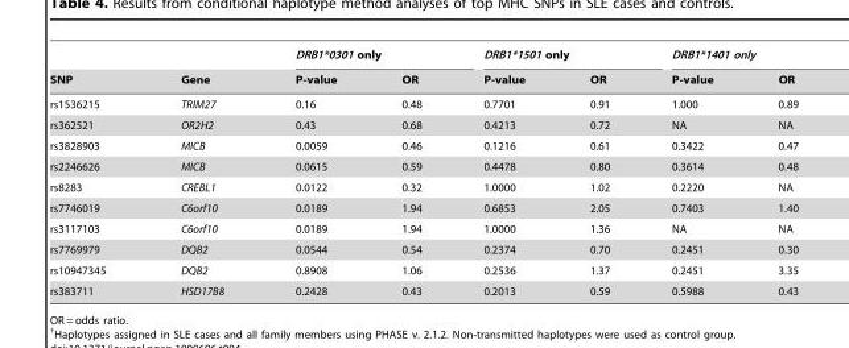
<table><thead><tr><td rowspan="2">SNP</td><td rowspan="2">Gene</td><td colspan="2">DRB1*0301 only</td><td colspan="2">DRB1*1501 only</td><td colspan="2">DRB1*1401 only</td></tr><tr><td>P-value</td><td>OR</td><td>P-value</td><td>OR</td><td>P-value</td><td>OR</td></tr></thead><tbody><tr><td>rs1536215</td><td>TRIM27</td><td>0.16</td><td>0.48</td><td>0.7701</td><td>0.91</td><td>1.000</td><td>0.89</td></tr><tr><td>rs362521</td><td>OR2H2</td><td>0.43</td><td>0.68</td><td>0.4213</td><td>0.72</td><td>NA</td><td>NA</td></tr><tr><td>rs3828903</td><td>MICB</td><td>0.0059</td><td>0.46</td><td>0.1216</td><td>0.61</td><td>0.3422</td><td>0.47</td></tr><tr><td>rs2246626</td><td>MICB</td><td>0.0615</td><td>0.59</td><td>0.4478</td><td>0.80</td><td>0.3614</td><td>0.48</td></tr><tr><td>rs8283</td><td>CREBL1</td><td>0.0122</td><td>0.32</td><td>1.0000</td><td>1.02</td><td>0.2220</td><td>NA</td></tr><tr><td>rs7746019</td><td>C6orf10</td><td>0.0189</td><td>1.94</td><td>0.6853</td><td>2.05</td><td>0.7403</td><td>1.40</td></tr><tr><td>rs3117103</td><td>C6orf10</td><td>0.0189</td><td>1.94</td><td>1.0000</td><td>1.36</td><td>NA</td><td>NA</td></tr><tr><td>rs7769979</td><td>DQB2</td><td>0.0544</td><td>0.54</td><td>0.2374</td><td>0.70</td><td>0.2451</td><td>0.30</td></tr><tr><td>rs10947345</td><td>DQB2</td><td>0.8908</td><td>1.06</td><td>0.2536</td><td>1.37</td><td>0.2451</td><td>3.35</td></tr><tr><td>rs383711</td><td>HSD17B8</td><td>0.2428</td><td>0.43</td><td>0.2013</td><td>0.59</td><td>0.5988</td><td>0.43</td></tr></tbody></table>